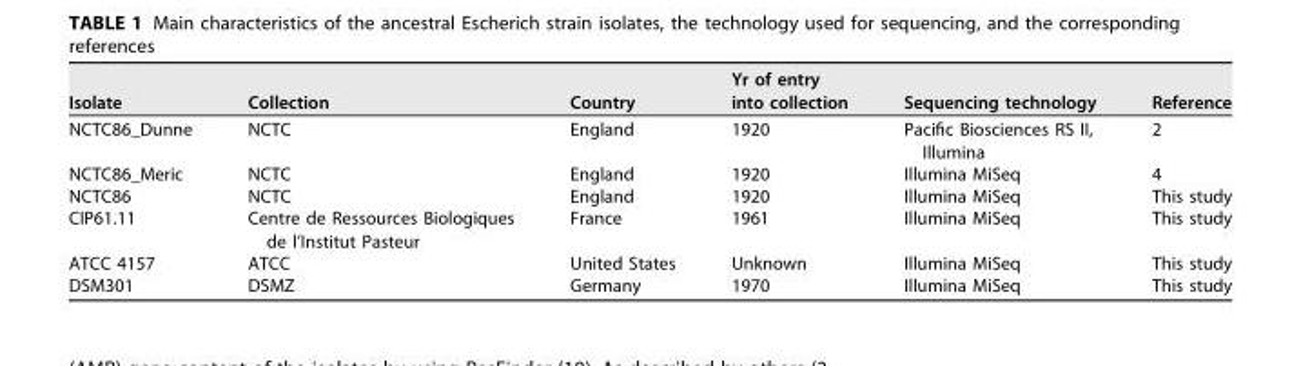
<table><thead><tr><td>Isolate</td><td>Collection</td><td>Country</td><td>Yr of entry into collection</td><td>Sequencing technology</td><td>Reference</td></tr></thead><tbody><tr><td>NCTC86_Dunne</td><td>NCTC</td><td>England</td><td>1920</td><td>Pacific Biosciences RS II, Illumina</td><td>2</td></tr><tr><td>NCTC86_Meric</td><td>NCTC</td><td>England</td><td>1920</td><td>Illumina MiSeq</td><td>4</td></tr><tr><td>NCTC86</td><td>NCTC</td><td>England</td><td>1920</td><td>Illumina MiSeq</td><td>This study</td></tr><tr><td>CIP61.11</td><td>Centre de Ressources Biologiques de l’Institut Pasteur</td><td>France</td><td>1961</td><td>Illumina MiSeq</td><td>This study</td></tr><tr><td>ATCC 4157</td><td>ATCC</td><td>United States</td><td>Unknown</td><td>Illumina MiSeq</td><td>This study</td></tr><tr><td>DSM301</td><td>DSMZ</td><td>Germany</td><td>1970</td><td>Illumina MiSeq</td><td>This study</td></tr></tbody></table>